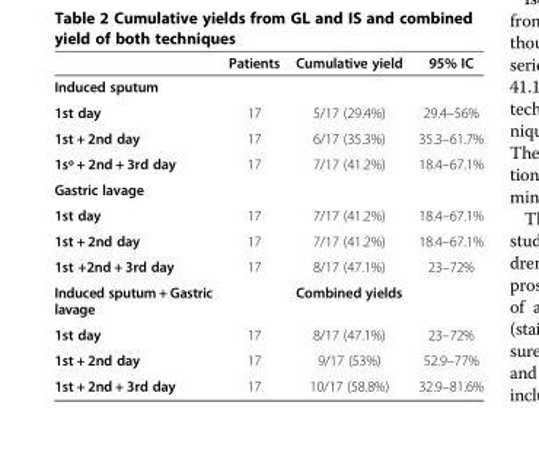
<table><thead><tr><td></td><td>Patients</td><td>Cumulative yield</td><td>95% IC</td></tr></thead><tbody><tr><td colspan="4">Induced sputum</td></tr><tr><td>1st day</td><td>17</td><td>5/17 (29.4%)</td><td>29.4–56%</td></tr><tr><td>1st + 2nd day</td><td>17</td><td>6/17 (35.3%)</td><td>35.3–61.7%</td></tr><tr><td>1sº + 2nd + 3rd day</td><td>17</td><td>7/17 (41.2%)</td><td>18.4–67.1%</td></tr><tr><td colspan="4">Gastric lavage</td></tr><tr><td>1st day</td><td>17</td><td>7/17 (41.2%)</td><td>18.4–67.1%</td></tr><tr><td>1st + 2nd day</td><td>17</td><td>7/17 (41.2%)</td><td>18.4–67.1%</td></tr><tr><td>1st +2nd + 3rd day</td><td>17</td><td>8/17 (47.1%)</td><td>23–72%</td></tr><tr><td>Induced sputum + Gastric lavage</td><td></td><td>Combined yields</td><td></td></tr><tr><td>1st day</td><td>17</td><td>8/17 (47.1%)</td><td>23–72%</td></tr><tr><td>1st + 2nd day</td><td>17</td><td>9/17 (53%)</td><td>52.9–77%</td></tr><tr><td>1st + 2nd + 3rd day</td><td>17</td><td>10/17 (58.8%)</td><td>32.9–81.6%</td></tr></tbody></table>